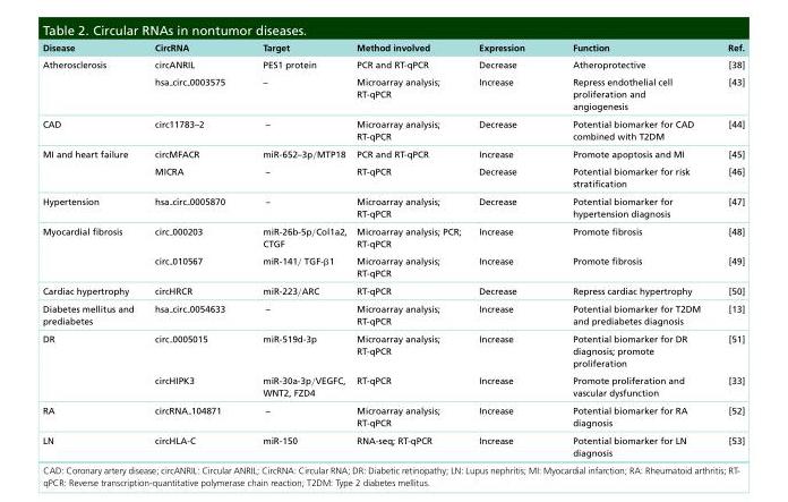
<table><thead><tr><td>Disease</td><td>CircRNA</td><td>Target</td><td>Method involved</td><td>Expression</td><td>Function</td><td>Ref.</td></tr></thead><tbody><tr><td rowspan="2">Atherosclerosis</td><td>circANRIL</td><td>PES1 protein</td><td>PCR and RT-qPCR</td><td>Decrease</td><td>Atheroprotective</td><td>[38]</td></tr><tr><td>hsa <sub>circ</sub> 0003575</td><td>–</td><td>Microarray analysis; RT-qPCR</td><td>Increase</td><td>Repress endothelial cell proliferation and angiogenesis</td><td>[43]</td></tr><tr><td>CAD</td><td>circ11783–2</td><td>–</td><td>Microarray analysis; RT-qPCR</td><td>Decrease</td><td>Potential biomarker for CAD combined with T2DM</td><td>[44]</td></tr><tr><td rowspan="2">MI and heart failure</td><td>circMFACR</td><td>miR-652–3p/MTP18</td><td>PCR and RT-qPCR</td><td>Increase</td><td>Promote apoptosis and MI</td><td>[45]</td></tr><tr><td>MICRA</td><td>–</td><td>RT-qPCR</td><td>Decrease</td><td>Potential biomarker for risk stratification</td><td>[46]</td></tr><tr><td>Hypertension</td><td>hsa <sub>circ</sub> 0005870</td><td>–</td><td>Microarray analysis; RT-qPCR</td><td>Decrease</td><td>Potential biomarker for hypertension diagnosis</td><td>[47]</td></tr><tr><td rowspan="2">Myocardial fibrosis</td><td>circ 000203</td><td>miR-26b-5p/Col1a2, CTGF</td><td>Microarray analysis; PCR; RT-qPCR</td><td>Increase</td><td>Promote fibrosis</td><td>[48]</td></tr><tr><td>circ 010567</td><td>miR-141/ TGF-β1</td><td>Microarray analysis; RT-qPCR</td><td>Increase</td><td>Promote fibrosis</td><td>[49]</td></tr><tr><td>Cardiac hypertrophy</td><td>circHRCR</td><td>miR-223/ARC</td><td>RT-qPCR</td><td>Decrease</td><td>Repress cardiac hypertrophy</td><td>[50]</td></tr><tr><td>Diabetes mellitus and prediabetes</td><td>hsa <sub>circ</sub> 0054633</td><td>–</td><td>Microarray analysis; RT-qPCR</td><td>Increase</td><td>Potential biomarker for T2DM and prediabetes diagnosis</td><td>[13]</td></tr><tr><td rowspan="2">DR</td><td>circ 0005015</td><td>miR-519d-3p</td><td>Microarray analysis; RT-qPCR</td><td>Increase</td><td>Potential biomarker for DR diagnosis; promote proliferation</td><td>[51]</td></tr><tr><td>circHIPK3</td><td>miR-30a-3p/VEGFC, WNT2, FZD4</td><td>RT-qPCR</td><td>Increase</td><td>Promote proliferation and vascular dysfunction</td><td>[33]</td></tr><tr><td>RA</td><td>circRNA 104871</td><td>–</td><td>Microarray analysis; RT-qPCR</td><td>Increase</td><td>Potential biomarker for RA diagnosis</td><td>[52]</td></tr><tr><td>LN</td><td>circHLA-C</td><td>miR-150</td><td>RNA-seq; RT-qPCR</td><td>Increase</td><td>Potential biomarker for LN diagnosis</td><td>[53]</td></tr></tbody></table>